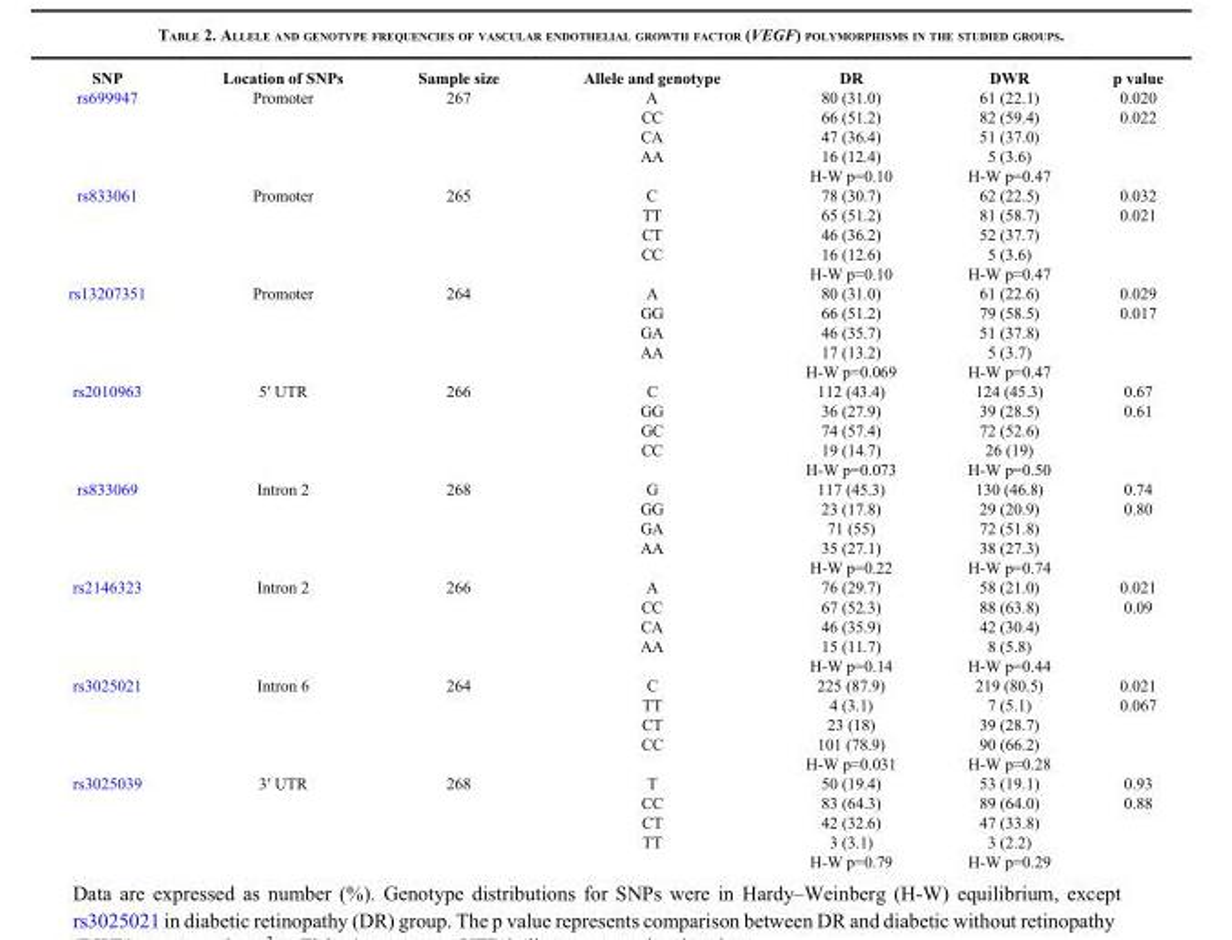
<table><thead><tr><td>SNP</td><td>Location of SNPs</td><td>Sample size</td><td>Allele and genotype</td><td>DR</td><td>DWR</td><td>p value</td></tr></thead><tbody><tr><td rowspan="5">rs699947</td><td>Promoter</td><td>267</td><td>A</td><td>80 (31.0)</td><td>61 (22.1)</td><td>0.020</td></tr><tr><td></td><td></td><td>CC</td><td>66 (51.2)</td><td>82 (59.4)</td><td>0.022</td></tr><tr><td></td><td></td><td>CA</td><td>47 (36.4)</td><td>51 (37.0)</td><td></td></tr><tr><td></td><td></td><td>AA</td><td>16 (12.4)</td><td>5 (3.6)</td><td></td></tr><tr><td></td><td></td><td></td><td>H-W p=0.10</td><td>H-W p=0.47</td><td></td></tr><tr><td rowspan="5">rs833061</td><td>Promoter</td><td>265</td><td>C</td><td>78 (30.7)</td><td>62 (22.5)</td><td>0.032</td></tr><tr><td></td><td></td><td>TT</td><td>65 (51.2)</td><td>81 (58.7)</td><td>0.021</td></tr><tr><td></td><td></td><td>CT</td><td>46 (36.2)</td><td>52 (37.7)</td><td></td></tr><tr><td></td><td></td><td>CC</td><td>16 (12.6)</td><td>5 (3.6)</td><td></td></tr><tr><td></td><td></td><td></td><td>H-W p=0.10</td><td>H-W p=0.47</td><td></td></tr><tr><td rowspan="5">rs13207351</td><td>Promoter</td><td>264</td><td>A</td><td>80 (31.0)</td><td>61 (22.6)</td><td>0.029</td></tr><tr><td></td><td></td><td>GG</td><td>66 (51.2)</td><td>79 (58.5)</td><td>0.017</td></tr><tr><td></td><td></td><td>GA</td><td>46 (35.7)</td><td>51 (37.8)</td><td></td></tr><tr><td></td><td></td><td>AA</td><td>17 (13.2)</td><td>5 (3.7)</td><td></td></tr><tr><td></td><td></td><td></td><td>H-W p=0.069</td><td>H-W p=0.47</td><td></td></tr><tr><td rowspan="5">rs2010963</td><td>5′ UTR</td><td>266</td><td>C</td><td>112 (43.4)</td><td>124 (45.3)</td><td>0.67</td></tr><tr><td></td><td></td><td>GG</td><td>36 (27.9)</td><td>39 (28.5)</td><td>0.61</td></tr><tr><td></td><td></td><td>GC</td><td>74 (57.4)</td><td>72 (52.6)</td><td></td></tr><tr><td></td><td></td><td>CC</td><td>19 (14.7)</td><td>26 (19)</td><td></td></tr><tr><td></td><td></td><td></td><td>H-W p=0.073</td><td>H-W p=0.50</td><td></td></tr><tr><td rowspan="5">rs833069</td><td>Intron 2</td><td>268</td><td>G</td><td>117 (45.3)</td><td>130 (46.8)</td><td>0.74</td></tr><tr><td></td><td></td><td>GG</td><td>23 (17.8)</td><td>29 (20.9)</td><td>0.80</td></tr><tr><td></td><td></td><td>GA</td><td>71 (55)</td><td>72 (51.8)</td><td></td></tr><tr><td></td><td></td><td>AA</td><td>35 (27.1)</td><td>38 (27.3)</td><td></td></tr><tr><td></td><td></td><td></td><td>H-W p=0.22</td><td>H-W p=0.74</td><td></td></tr><tr><td rowspan="5">rs2146323</td><td>Intron 2</td><td>266</td><td>A</td><td>76 (29.7)</td><td>58 (21.0)</td><td>0.021</td></tr><tr><td></td><td></td><td>CC</td><td>67 (52.3)</td><td>88 (63.8)</td><td>0.09</td></tr><tr><td></td><td></td><td>CA</td><td>46 (35.9)</td><td>42 (30.4)</td><td></td></tr><tr><td></td><td></td><td>AA</td><td>15 (11.7)</td><td>8 (5.8)</td><td></td></tr><tr><td></td><td></td><td></td><td>H-W p=0.14</td><td>H-W p=0.44</td><td></td></tr><tr><td rowspan="5">rs3025021</td><td>Intron 6</td><td>264</td><td>C</td><td>225 (87.9)</td><td>219 (80.5)</td><td>0.021</td></tr><tr><td></td><td></td><td>TT</td><td>4 (3.1)</td><td>7 (5.1)</td><td>0.067</td></tr><tr><td></td><td></td><td>CT</td><td>23 (18)</td><td>39 (28.7)</td><td></td></tr><tr><td></td><td></td><td>CC</td><td>101 (78.9)</td><td>90 (66.2)</td><td></td></tr><tr><td></td><td></td><td></td><td>H-W p=0.031</td><td>H-W p=0.28</td><td></td></tr><tr><td rowspan="5">rs3025039</td><td>3′ UTR</td><td>268</td><td>T</td><td>50 (19.4)</td><td>53 (19.1)</td><td>0.93</td></tr><tr><td></td><td></td><td>CC</td><td>83 (64.3)</td><td>89 (64.0)</td><td>0.88</td></tr><tr><td></td><td></td><td>CT</td><td>42 (32.6)</td><td>47 (33.8)</td><td></td></tr><tr><td></td><td></td><td>TT</td><td>3 (3.1)</td><td>3 (2.2)</td><td></td></tr><tr><td></td><td></td><td></td><td>H-W p=0.79</td><td>H-W p=0.29</td><td></td></tr></tbody></table>